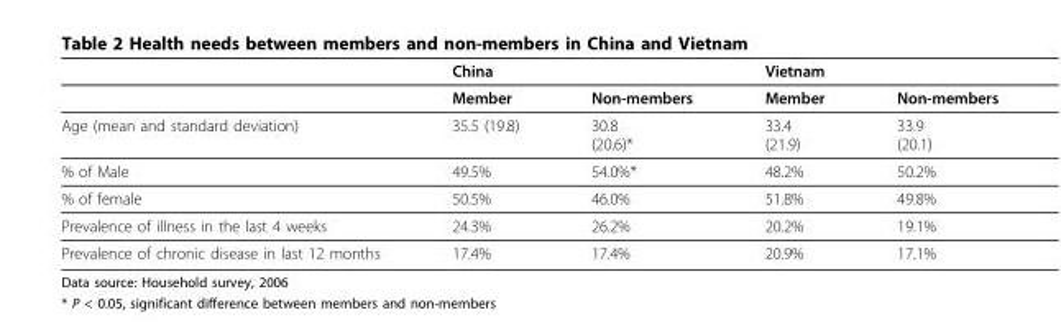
<table><thead><tr><td></td><td>China</td><td></td><td>Vietnam</td><td></td></tr></thead><tbody><tr><td></td><td>Member</td><td>Non-members</td><td>Member</td><td>Non-members</td></tr><tr><td>Age (mean and standard deviation)</td><td>35.5 (19.8)</td><td>30.8 (20.6)*</td><td>33.4 (21.9)</td><td>33.9 (20.1)</td></tr><tr><td>% of Male</td><td>49.5%</td><td>54.0%*</td><td>48.2%</td><td>50.2%</td></tr><tr><td>% of female</td><td>50.5%</td><td>46.0%</td><td>51.8%</td><td>49.8%</td></tr><tr><td>Prevalence of illness in the last 4 weeks</td><td>24.3%</td><td>26.2%</td><td>20.2%</td><td>19.1%</td></tr><tr><td>Prevalence of chronic disease in last 12 months</td><td>17.4%</td><td>17.4%</td><td>20.9%</td><td>17.1%</td></tr></tbody></table>